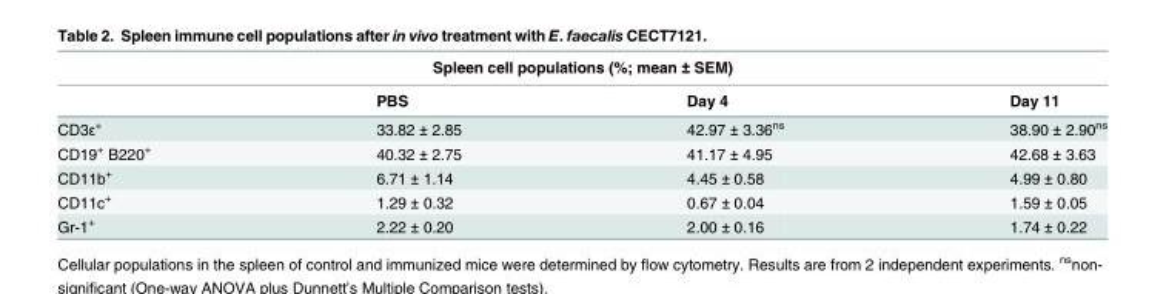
<table><thead><tr><td colspan="4">Spleen cell populations (%; mean ± SEM)</td></tr><tr><td></td><td>PBS</td><td>Day 4</td><td>Day 11</td></tr></thead><tbody><tr><td>CD3ε<sup>+</sup></td><td>33.82 ± 2.85</td><td>42.97 ± 3.36<sup>ns</sup></td><td>38.90 ± 2.90<sup>ns</sup></td></tr><tr><td>CD19<sup>+</sup> B220<sup>+</sup></td><td>40.32 ± 2.75</td><td>41.17 ± 4.95</td><td>42.68 ± 3.63</td></tr><tr><td>CD11b<sup>+</sup></td><td>6.71 ± 1.14</td><td>4.45 ± 0.58</td><td>4.99 ± 0.80</td></tr><tr><td>CD11c<sup>+</sup></td><td>1.29 ± 0.32</td><td>0.67 ± 0.04</td><td>1.59 ± 0.05</td></tr><tr><td>Gr-1<sup>+</sup></td><td>2.22 ± 0.20</td><td>2.00 ± 0.16</td><td>1.74 ± 0.22</td></tr></tbody></table>